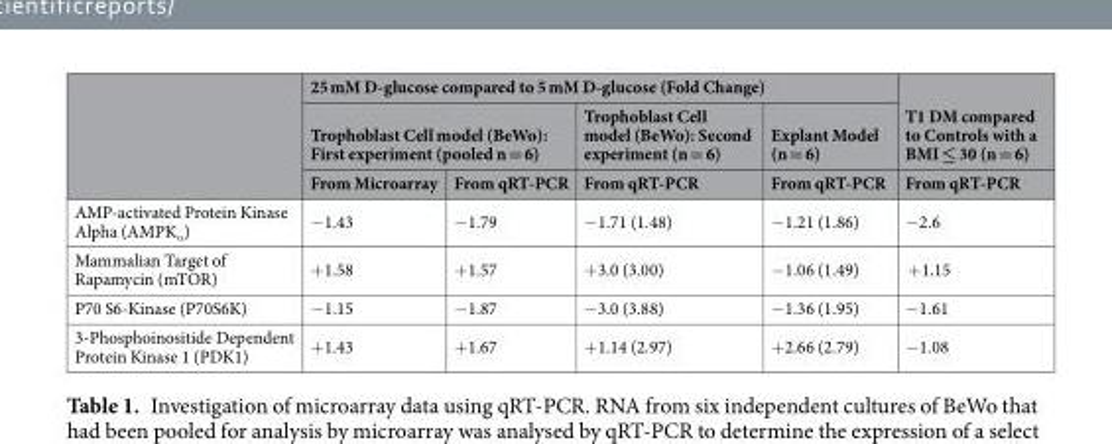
<table><thead><tr><td rowspan="3"></td><td colspan="4">25 mM D-glucose compared to 5 mM D-glucose (Fold Change)</td><td rowspan="3">T1 DM compared to Controls with a BMI ≤ 30 (n = 6) From qRT-PCR</td></tr><tr><td colspan="2">Trophoblast Cell model (BeWo): First experiment (pooled n = 6)</td><td rowspan="2">Trophoblast Cell model (BeWo): Second experiment (n = 6) From qRT-PCR</td><td rowspan="2">Explant Model (n = 6) From qRT-PCR</td></tr><tr><td>From Microarray</td><td>From qRT-PCR</td></tr></thead><tbody><tr><td>AMP-activated Protein Kinase Alpha (AMPK<sub>α</sub>)</td><td>−1.43</td><td>−1.79</td><td>−1.71 (1.48)</td><td>−1.21 (1.86)</td><td>−2.6</td></tr><tr><td>Mammalian Target of Rapamycin (mTOR)</td><td>+1.58</td><td>+1.57</td><td>+3.0 (3.00)</td><td>−1.06 (1.49)</td><td>+1.15</td></tr><tr><td>P70 S6-Kinase (P70S6K)</td><td>−1.15</td><td>−1.87</td><td>−3.0 (3.88)</td><td>−1.36 (1.95)</td><td>−1.61</td></tr><tr><td>3-Phosphoinositide Dependent Protein Kinase 1 (PDK1)</td><td>+1.43</td><td>+1.67</td><td>+1.14 (2.97)</td><td>+2.66 (2.79)</td><td>−1.08</td></tr></tbody></table>